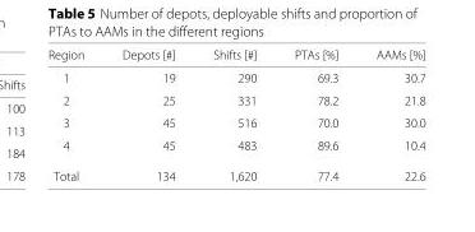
<table><thead><tr><td>Region</td><td>Depots [#]</td><td>Shifts [#]</td><td>PTAs [%]</td><td>AAMs [%]</td></tr></thead><tbody><tr><td>1</td><td>19</td><td>290</td><td>69.3</td><td>30.7</td></tr><tr><td>2</td><td>25</td><td>331</td><td>78.2</td><td>21.8</td></tr><tr><td>3</td><td>45</td><td>516</td><td>70.0</td><td>30.0</td></tr><tr><td>4</td><td>45</td><td>483</td><td>89.6</td><td>10.4</td></tr><tr><td>Total</td><td>134</td><td>1,620</td><td>77.4</td><td>22.6</td></tr></tbody></table>